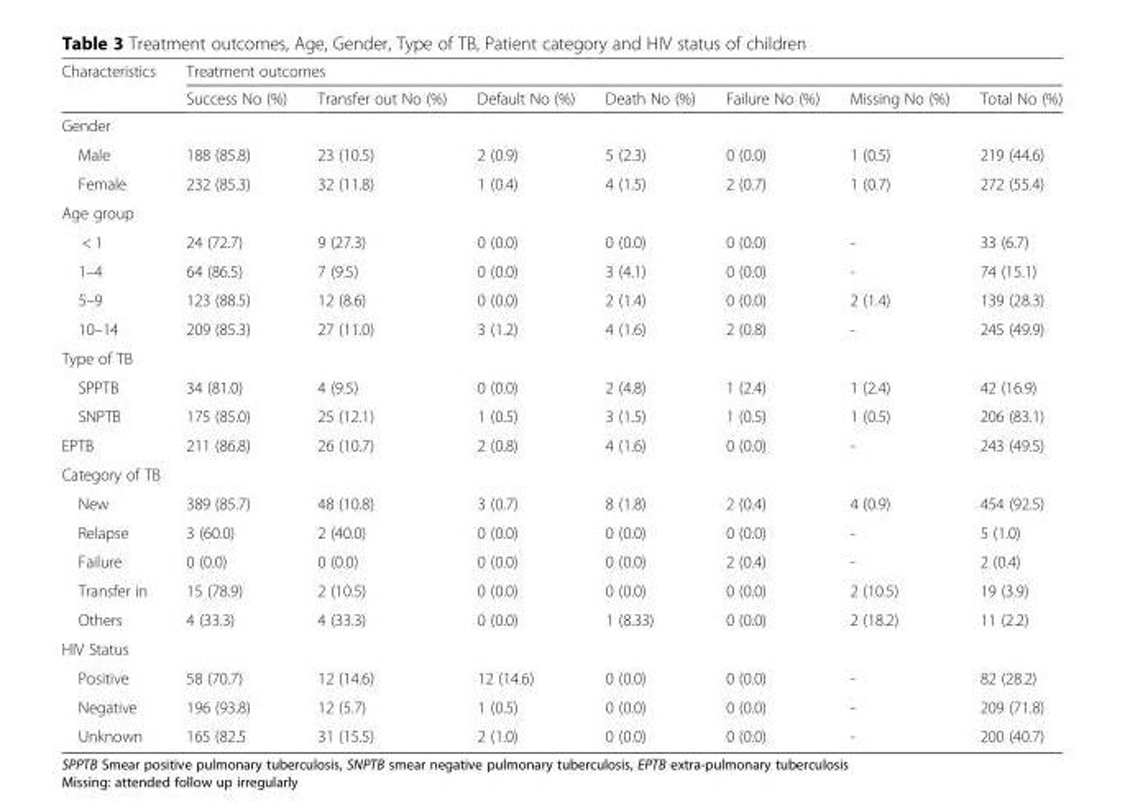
<table><thead><tr><td rowspan="2">Characteristics</td><td colspan="7">Treatment outcomes</td></tr><tr><td>Success No (%)</td><td>Transfer out No (%)</td><td>Default No (%)</td><td>Death No (%)</td><td>Failure No (%)</td><td>Missing No (%)</td><td>Total No (%)</td></tr></thead><tbody><tr><td colspan="8">Gender</td></tr><tr><td>Male</td><td>188 (85.8)</td><td>23 (10.5)</td><td>2 (0.9)</td><td>5 (2.3)</td><td>0 (0.0)</td><td>1 (0.5)</td><td>219 (44.6)</td></tr><tr><td>Female</td><td>232 (85.3)</td><td>32 (11.8)</td><td>1 (0.4)</td><td>4 (1.5)</td><td>2 (0.7)</td><td>1 (0.7)</td><td>272 (55.4)</td></tr><tr><td colspan="8">Age group</td></tr><tr><td>&lt; 1</td><td>24 (72.7)</td><td>9 (27.3)</td><td>0 (0.0)</td><td>0 (0.0)</td><td>0 (0.0)</td><td>-</td><td>33 (6.7)</td></tr><tr><td>1–4</td><td>64 (86.5)</td><td>7 (9.5)</td><td>0 (0.0)</td><td>3 (4.1)</td><td>0 (0.0)</td><td>-</td><td>74 (15.1)</td></tr><tr><td>5–9</td><td>123 (88.5)</td><td>12 (8.6)</td><td>0 (0.0)</td><td>2 (1.4)</td><td>0 (0.0)</td><td>2 (1.4)</td><td>139 (28.3)</td></tr><tr><td>10–14</td><td>209 (85.3)</td><td>27 (11.0)</td><td>3 (1.2)</td><td>4 (1.6)</td><td>2 (0.8)</td><td>-</td><td>245 (49.9)</td></tr><tr><td colspan="8">Type of TB</td></tr><tr><td>SPPTB</td><td>34 (81.0)</td><td>4 (9.5)</td><td>0 (0.0)</td><td>2 (4.8)</td><td>1 (2.4)</td><td>1 (2.4)</td><td>42 (16.9)</td></tr><tr><td>SNPTB</td><td>175 (85.0)</td><td>25 (12.1)</td><td>1 (0.5)</td><td>3 (1.5)</td><td>1 (0.5)</td><td>1 (0.5)</td><td>206 (83.1)</td></tr><tr><td>EPTB</td><td>211 (86.8)</td><td>26 (10.7)</td><td>2 (0.8)</td><td>4 (1.6)</td><td>0 (0.0)</td><td>-</td><td>243 (49.5)</td></tr><tr><td colspan="8">Category of TB</td></tr><tr><td>New</td><td>389 (85.7)</td><td>48 (10.8)</td><td>3 (0.7)</td><td>8 (1.8)</td><td>2 (0.4)</td><td>4 (0.9)</td><td>454 (92.5)</td></tr><tr><td>Relapse</td><td>3 (60.0)</td><td>2 (40.0)</td><td>0 (0.0)</td><td>0 (0.0)</td><td>0 (0.0)</td><td>-</td><td>5 (1.0)</td></tr><tr><td>Failure</td><td>0 (0.0)</td><td>0 (0.0)</td><td>0 (0.0)</td><td>0 (0.0)</td><td>2 (0.4)</td><td>-</td><td>2 (0.4)</td></tr><tr><td>Transfer in</td><td>15 (78.9)</td><td>2 (10.5)</td><td>0 (0.0)</td><td>0 (0.0)</td><td>0 (0.0)</td><td>2 (10.5)</td><td>19 (3.9)</td></tr><tr><td>Others</td><td>4 (33.3)</td><td>4 (33.3)</td><td>0 (0.0)</td><td>1 (8.33)</td><td>0 (0.0)</td><td>2 (18.2)</td><td>11 (2.2)</td></tr><tr><td colspan="8">HIV Status</td></tr><tr><td>Positive</td><td>58 (70.7)</td><td>12 (14.6)</td><td>12 (14.6)</td><td>0 (0.0)</td><td>0 (0.0)</td><td>-</td><td>82 (28.2)</td></tr><tr><td>Negative</td><td>196 (93.8)</td><td>12 (5.7)</td><td>1 (0.5)</td><td>0 (0.0)</td><td>0 (0.0)</td><td>-</td><td>209 (71.8)</td></tr><tr><td>Unknown</td><td>165 (82.5</td><td>31 (15.5)</td><td>2 (1.0)</td><td>0 (0.0)</td><td>0 (0.0)</td><td>-</td><td>200 (40.7)</td></tr></tbody></table>